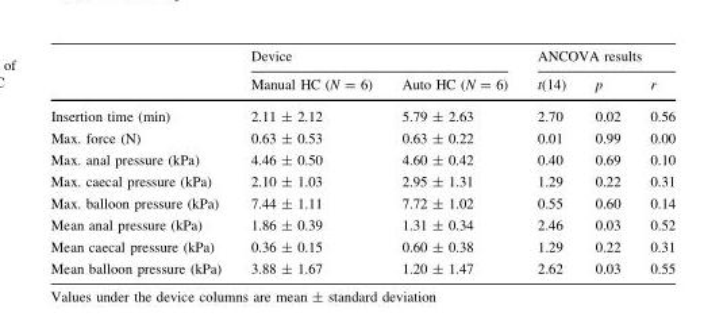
<table><thead><tr><td rowspan="2"></td><td colspan="2">Device</td><td colspan="3">ANCOVA results</td></tr><tr><td>Manual HC (N = 6)</td><td>Auto HC (N = 6)</td><td>t(14)</td><td>p</td><td>r</td></tr></thead><tbody><tr><td>Insertion time (min)</td><td>2.11 ± 2.12</td><td>5.79 ± 2.63</td><td>2.70</td><td>0.02</td><td>0.56</td></tr><tr><td>Max. force (N)</td><td>0.63 ± 0.53</td><td>0.63 ± 0.22</td><td>0.01</td><td>0.99</td><td>0.00</td></tr><tr><td>Max. anal pressure (kPa)</td><td>4.46 ± 0.50</td><td>4.60 ± 0.42</td><td>0.40</td><td>0.69</td><td>0.10</td></tr><tr><td>Max. caecal pressure (kPa)</td><td>2.10 ± 1.03</td><td>2.95 ± 1.31</td><td>1.29</td><td>0.22</td><td>0.31</td></tr><tr><td>Max. balloon pressure (kPa)</td><td>7.44 ± 1.11</td><td>7.72 ± 1.02</td><td>0.55</td><td>0.60</td><td>0.14</td></tr><tr><td>Mean anal pressure (kPa)</td><td>1.86 ± 0.39</td><td>1.31 ± 0.34</td><td>2.46</td><td>0.03</td><td>0.52</td></tr><tr><td>Mean caecal pressure (kPa)</td><td>0.36 ± 0.15</td><td>0.60 ± 0.38</td><td>1.29</td><td>0.22</td><td>0.31</td></tr><tr><td>Mean balloon pressure (kPa)</td><td>3.88 ± 1.67</td><td>1.20 ± 1.47</td><td>2.62</td><td>0.03</td><td>0.55</td></tr></tbody></table>